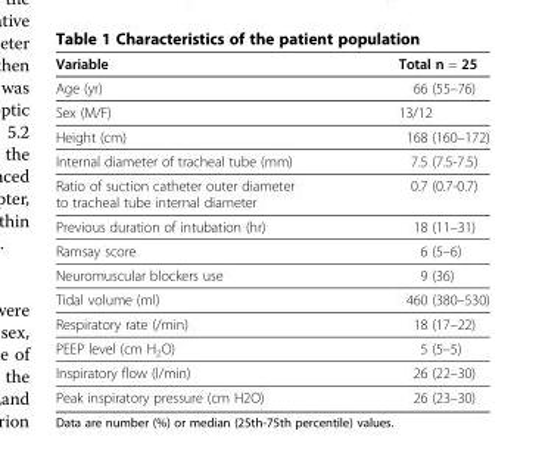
<table><thead><tr><td>Variable</td><td>Total n = 25</td></tr></thead><tbody><tr><td>Age (yr)</td><td>66 (55–76)</td></tr><tr><td>Sex (M/F)</td><td>13/12</td></tr><tr><td>Height (cm)</td><td>168 (160–172)</td></tr><tr><td>Internal diameter of tracheal tube (mm)</td><td>7.5 (7.5-7.5)</td></tr><tr><td>Ratio of suction catheter outer diameter to tracheal tube internal diameter</td><td>0.7 (0.7-0.7)</td></tr><tr><td>Previous duration of intubation (hr)</td><td>18 (11–31)</td></tr><tr><td>Ramsay score</td><td>6 (5–6)</td></tr><tr><td>Neuromuscular blockers use</td><td>9 (36)</td></tr><tr><td>Tidal volume (ml)</td><td>460 (380–530)</td></tr><tr><td>Respiratory rate (/min)</td><td>18 (17–22)</td></tr><tr><td>PEEP level (cm H<sub>2</sub>O)</td><td>5 (5–5)</td></tr><tr><td>Inspiratory flow (l/min)</td><td>26 (22–30)</td></tr><tr><td>Peak inspiratory pressure (cm H2O)</td><td>26 (23–30)</td></tr></tbody></table>